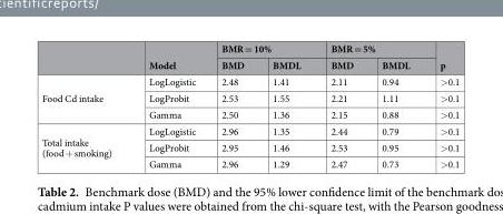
<table><thead><tr><td rowspan="2"></td><td rowspan="2">Model</td><td colspan="2">BMR = 10%</td><td colspan="2">BMR = 5%</td><td rowspan="2">p</td></tr><tr><td>BMD</td><td>BMDL</td><td>BMD</td><td>BMDL</td></tr></thead><tbody><tr><td rowspan="3">Food Cd intake</td><td>LogLogistic</td><td>2.48</td><td>1.41</td><td>2.11</td><td>0.94</td><td>&gt;0.1</td></tr><tr><td>LogProbit</td><td>2.53</td><td>1.55</td><td>2.21</td><td>1.11</td><td>&gt;0.1</td></tr><tr><td>Gamma</td><td>2.50</td><td>1.36</td><td>2.15</td><td>0.88</td><td>&gt;0.1</td></tr><tr><td rowspan="3">Total intake (food + smoking)</td><td>LogLogistic</td><td>2.96</td><td>1.35</td><td>2.44</td><td>0.79</td><td>&gt;0.1</td></tr><tr><td>LogProbit</td><td>2.95</td><td>1.46</td><td>2.53</td><td>0.95</td><td>&gt;0.1</td></tr><tr><td>Gamma</td><td>2.96</td><td>1.29</td><td>2.47</td><td>0.73</td><td>&gt;0.1</td></tr></tbody></table>